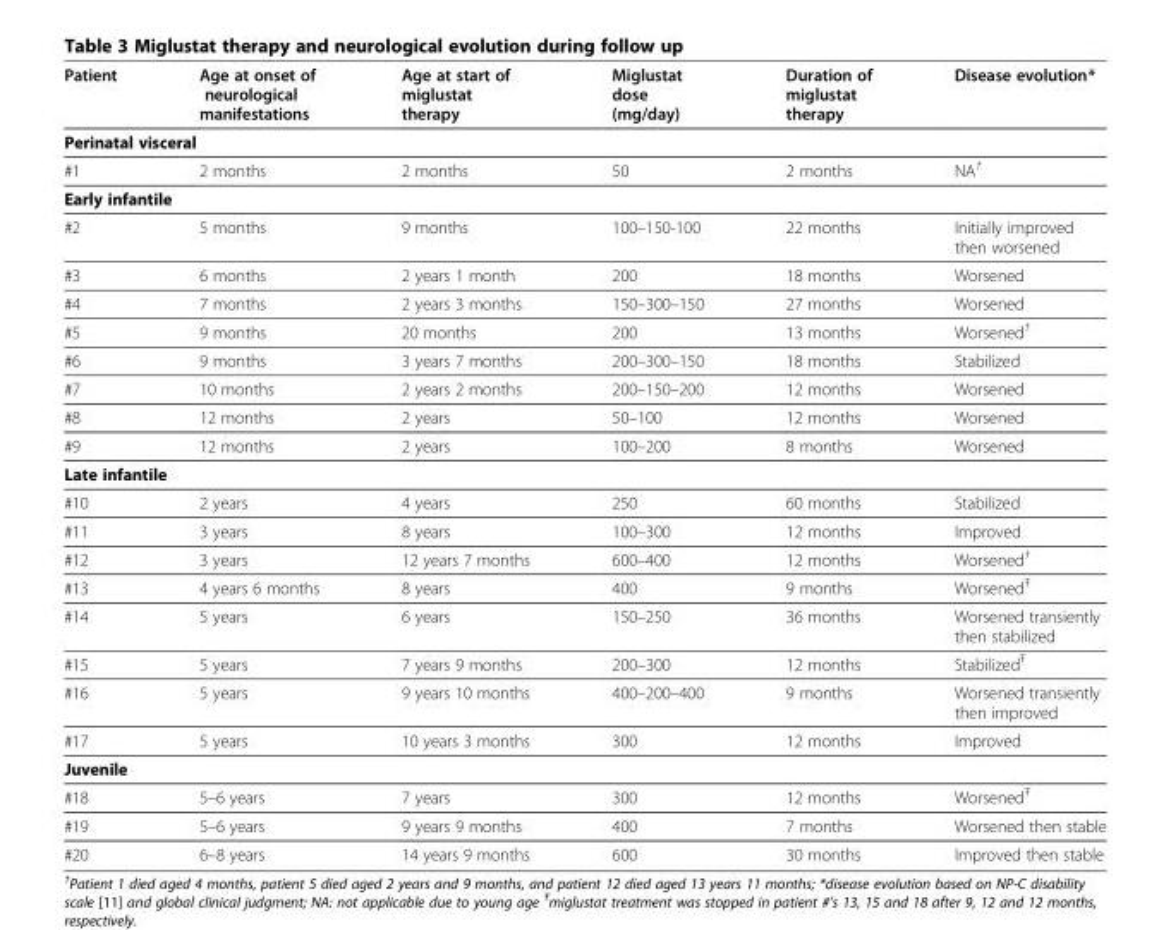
<table><thead><tr><td>Patient</td><td>Age at onset of neurological manifestations</td><td>Age at start of miglustat therapy</td><td>Miglustat dose (mg/day)</td><td>Duration of miglustat therapy</td><td>Disease evolution*</td></tr></thead><tbody><tr><td colspan="6">Perinatal visceral</td></tr><tr><td>#1</td><td>2 months</td><td>2 months</td><td>50</td><td>2 months</td><td>NA<sup>†</sup></td></tr><tr><td colspan="6">Early infantile</td></tr><tr><td>#2</td><td>5 months</td><td>9 months</td><td>100–150-100</td><td>22 months</td><td>Initially improved then worsened</td></tr><tr><td>#3</td><td>6 months</td><td>2 years 1 month</td><td>200</td><td>18 months</td><td>Worsened</td></tr><tr><td>#4</td><td>7 months</td><td>2 years 3 months</td><td>150–300–150</td><td>27 months</td><td>Worsened</td></tr><tr><td>#5</td><td>9 months</td><td>20 months</td><td>200</td><td>13 months</td><td>Worsened<sup>†</sup></td></tr><tr><td>#6</td><td>9 months</td><td>3 years 7 months</td><td>200–300–150</td><td>18 months</td><td>Stabilized</td></tr><tr><td>#7</td><td>10 months</td><td>2 years 2 months</td><td>200–150–200</td><td>12 months</td><td>Worsened</td></tr><tr><td>#8</td><td>12 months</td><td>2 years</td><td>50–100</td><td>12 months</td><td>Worsened</td></tr><tr><td>#9</td><td>12 months</td><td>2 years</td><td>100–200</td><td>8 months</td><td>Worsened</td></tr><tr><td colspan="6">Late infantile</td></tr><tr><td>#10</td><td>2 years</td><td>4 years</td><td>250</td><td>60 months</td><td>Stabilized</td></tr><tr><td>#11</td><td>3 years</td><td>8 years</td><td>100–300</td><td>12 months</td><td>Improved</td></tr><tr><td>#12</td><td>3 years</td><td>12 years 7 months</td><td>600–400</td><td>12 months</td><td>Worsened<sup>†</sup></td></tr><tr><td>#13</td><td>4 years 6 months</td><td>8 years</td><td>400</td><td>9 months</td><td>Worsened<sup>Ŧ</sup></td></tr><tr><td>#14</td><td>5 years</td><td>6 years</td><td>150–250</td><td>36 months</td><td>Worsened transiently then stabilized</td></tr><tr><td>#15</td><td>5 years</td><td>7 years 9 months</td><td>200–300</td><td>12 months</td><td>Stabilized<sup>Ŧ</sup></td></tr><tr><td>#16</td><td>5 years</td><td>9 years 10 months</td><td>400–200–400</td><td>9 months</td><td>Worsened transiently then improved</td></tr><tr><td>#17</td><td>5 years</td><td>10 years 3 months</td><td>300</td><td>12 months</td><td>Improved</td></tr><tr><td colspan="6">Juvenile</td></tr><tr><td>#18</td><td>5–6 years</td><td>7 years</td><td>300</td><td>12 months</td><td>Worsened<sup>Ŧ</sup></td></tr><tr><td>#19</td><td>5–6 years</td><td>9 years 9 months</td><td>400</td><td>7 months</td><td>Worsened then stable</td></tr><tr><td>#20</td><td>6–8 years</td><td>14 years 9 months</td><td>600</td><td>30 months</td><td>Improved then stable</td></tr></tbody></table>